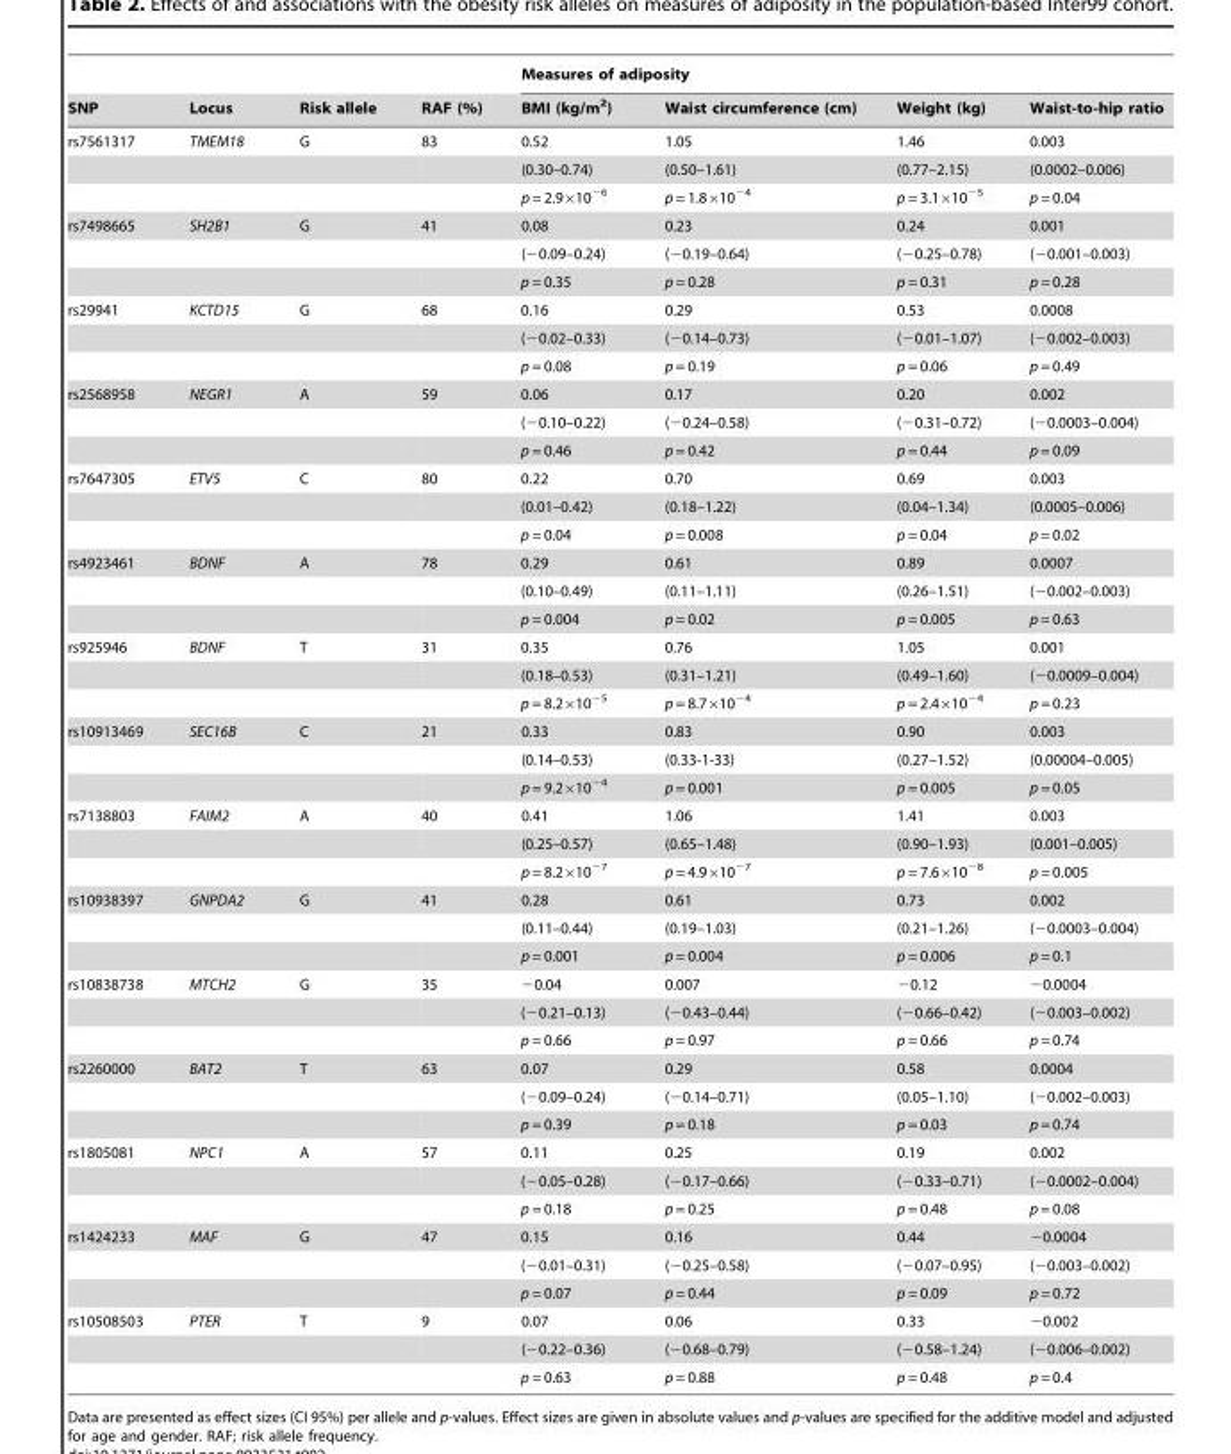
<table><thead><tr><td rowspan="2">SNP</td><td rowspan="2">Locus</td><td rowspan="2">Risk allele</td><td rowspan="2">RAF (%)</td><td colspan="4">Measures of adiposity</td></tr><tr><td>BMI (kg/m<sup>2</sup>)</td><td>Waist circumference (cm)</td><td>Weight (kg)</td><td>Waist-to-hip ratio</td></tr></thead><tbody><tr><td rowspan="3">rs7561317</td><td>TMEM18</td><td>G</td><td>83</td><td>0.52</td><td>1.05</td><td>1.46</td><td>0.003</td></tr><tr><td></td><td></td><td></td><td>(0.30–0.74)</td><td>(0.50–1.61)</td><td>(0.77–2.15)</td><td>(0.0002–0.006)</td></tr><tr><td></td><td></td><td></td><td>p = 2.9×10<sup>−6</sup></td><td>p = 1.8×10<sup>−4</sup></td><td>p = 3.1×10<sup>−5</sup></td><td>p = 0.04</td></tr><tr><td rowspan="3">rs7498665</td><td>SH2B1</td><td>G</td><td>41</td><td>0.08</td><td>0.23</td><td>0.24</td><td>0.001</td></tr><tr><td></td><td></td><td></td><td>(−0.09–0.24)</td><td>(−0.19–0.64)</td><td>(−0.25–0.78)</td><td>(−0.001–0.003)</td></tr><tr><td></td><td></td><td></td><td>p = 0.35</td><td>p = 0.28</td><td>p = 0.31</td><td>p = 0.28</td></tr><tr><td rowspan="3">rs29941</td><td>KCTD15</td><td>G</td><td>68</td><td>0.16</td><td>0.29</td><td>0.53</td><td>0.0008</td></tr><tr><td></td><td></td><td></td><td>(−0.02–0.33)</td><td>(−0.14–0.73)</td><td>(−0.01–1.07)</td><td>(−0.002–0.003)</td></tr><tr><td></td><td></td><td></td><td>p = 0.08</td><td>p = 0.19</td><td>p = 0.06</td><td>p = 0.49</td></tr><tr><td rowspan="3">rs2568958</td><td>NEGR1</td><td>A</td><td>59</td><td>0.06</td><td>0.17</td><td>0.20</td><td>0.002</td></tr><tr><td></td><td></td><td></td><td>(−0.10–0.22)</td><td>(−0.24–0.58)</td><td>(−0.31–0.72)</td><td>(−0.0003–0.004)</td></tr><tr><td></td><td></td><td></td><td>p = 0.46</td><td>p = 0.42</td><td>p = 0.44</td><td>p = 0.09</td></tr><tr><td rowspan="3">rs7647305</td><td>ETV5</td><td>C</td><td>80</td><td>0.22</td><td>0.70</td><td>0.69</td><td>0.003</td></tr><tr><td></td><td></td><td></td><td>(0.01–0.42)</td><td>(0.18–1.22)</td><td>(0.04–1.34)</td><td>(0.0005–0.006)</td></tr><tr><td></td><td></td><td></td><td>p = 0.04</td><td>p = 0.008</td><td>p = 0.04</td><td>p = 0.02</td></tr><tr><td rowspan="3">rs4923461</td><td>BDNF</td><td>A</td><td>78</td><td>0.29</td><td>0.61</td><td>0.89</td><td>0.0007</td></tr><tr><td></td><td></td><td></td><td>(0.10–0.49)</td><td>(0.11–1.11)</td><td>(0.26–1.51)</td><td>(−0.002–0.003)</td></tr><tr><td></td><td></td><td></td><td>p = 0.004</td><td>p = 0.02</td><td>p = 0.005</td><td>p = 0.63</td></tr><tr><td rowspan="3">rs925946</td><td>BDNF</td><td>T</td><td>31</td><td>0.35</td><td>0.76</td><td>1.05</td><td>0.001</td></tr><tr><td></td><td></td><td></td><td>(0.18–0.53)</td><td>(0.31–1.21)</td><td>(0.49–1.60)</td><td>(−0.0009–0.004)</td></tr><tr><td></td><td></td><td></td><td>p = 8.2×10<sup>−5</sup></td><td>p = 8.7×10<sup>−4</sup></td><td>p = 2.4×10<sup>−4</sup></td><td>p = 0.23</td></tr><tr><td rowspan="3">rs10913469</td><td>SEC16B</td><td>C</td><td>21</td><td>0.33</td><td>0.83</td><td>0.90</td><td>0.003</td></tr><tr><td></td><td></td><td></td><td>(0.14–0.53)</td><td>(0.33-1-33)</td><td>(0.27–1.52)</td><td>(0.00004–0.005)</td></tr><tr><td></td><td></td><td></td><td>p = 9.2×10<sup>−4</sup></td><td>p = 0.001</td><td>p = 0.005</td><td>p = 0.05</td></tr><tr><td rowspan="3">rs7138803</td><td>FAIM2</td><td>A</td><td>40</td><td>0.41</td><td>1.06</td><td>1.41</td><td>0.003</td></tr><tr><td></td><td></td><td></td><td>(0.25–0.57)</td><td>(0.65–1.48)</td><td>(0.90–1.93)</td><td>(0.001–0.005)</td></tr><tr><td></td><td></td><td></td><td>p = 8.2×10<sup>−7</sup></td><td>p = 4.9×10<sup>−7</sup></td><td>p = 7.6×10<sup>−8</sup></td><td>p = 0.005</td></tr><tr><td rowspan="3">rs10938397</td><td>GNPDA2</td><td>G</td><td>41</td><td>0.28</td><td>0.61</td><td>0.73</td><td>0.002</td></tr><tr><td></td><td></td><td></td><td>(0.11–0.44)</td><td>(0.19–1.03)</td><td>(0.21–1.26)</td><td>(−0.0003–0.004)</td></tr><tr><td></td><td></td><td></td><td>p = 0.001</td><td>p = 0.004</td><td>p = 0.006</td><td>p = 0.1</td></tr><tr><td rowspan="3">rs10838738</td><td>MTCH2</td><td>G</td><td>35</td><td>−0.04</td><td>0.007</td><td>−0.12</td><td>−0.0004</td></tr><tr><td></td><td></td><td></td><td>(−0.21–0.13)</td><td>(−0.43–0.44)</td><td>(−0.66–0.42)</td><td>(−0.003–0.002)</td></tr><tr><td></td><td></td><td></td><td>p = 0.66</td><td>p = 0.97</td><td>p = 0.66</td><td>p = 0.74</td></tr><tr><td rowspan="3">rs2260000</td><td>BAT2</td><td>T</td><td>63</td><td>0.07</td><td>0.29</td><td>0.58</td><td>0.0004</td></tr><tr><td></td><td></td><td></td><td>(−0.09–0.24)</td><td>(−0.14–0.71)</td><td>(0.05–1.10)</td><td>(−0.002–0.003)</td></tr><tr><td></td><td></td><td></td><td>p = 0.39</td><td>p = 0.18</td><td>p = 0.03</td><td>p = 0.74</td></tr><tr><td rowspan="3">rs1805081</td><td>NPC1</td><td>A</td><td>57</td><td>0.11</td><td>0.25</td><td>0.19</td><td>0.002</td></tr><tr><td></td><td></td><td></td><td>(−0.05–0.28)</td><td>(−0.17–0.66)</td><td>(−0.33–0.71)</td><td>(−0.0002–0.004)</td></tr><tr><td></td><td></td><td></td><td>p = 0.18</td><td>p = 0.25</td><td>p = 0.48</td><td>p = 0.08</td></tr><tr><td rowspan="3">rs1424233</td><td>MAF</td><td>G</td><td>47</td><td>0.15</td><td>0.16</td><td>0.44</td><td>−0.0004</td></tr><tr><td></td><td></td><td></td><td>(−0.01–0.31)</td><td>(−0.25–0.58)</td><td>(−0.07–0.95)</td><td>(−0.003–0.002)</td></tr><tr><td></td><td></td><td></td><td>p = 0.07</td><td>p = 0.44</td><td>p = 0.09</td><td>p = 0.72</td></tr><tr><td rowspan="3">rs10508503</td><td>PTER</td><td>T</td><td>9</td><td>0.07</td><td>0.06</td><td>0.33</td><td>−0.002</td></tr><tr><td></td><td></td><td></td><td>(−0.22–0.36)</td><td>(−0.68–0.79)</td><td>(−0.58–1.24)</td><td>(−0.006–0.002)</td></tr><tr><td></td><td></td><td></td><td>p = 0.63</td><td>p = 0.88</td><td>p = 0.48</td><td>p = 0.4</td></tr></tbody></table>